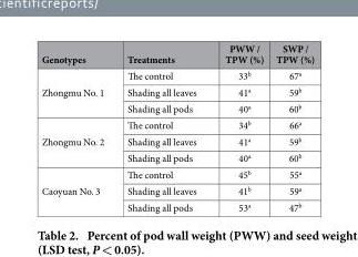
<table><thead><tr><td>Genotypes</td><td>Treatments</td><td>PWW / TPW (%)</td><td>SWP / TPW (%)</td></tr></thead><tbody><tr><td rowspan="3">Zhongmu No. 1</td><td>The control</td><td>33<sup>b</sup></td><td>67<sup>a</sup></td></tr><tr><td>Shading all leaves</td><td>41<sup>a</sup></td><td>59<sup>b</sup></td></tr><tr><td>Shading all pods</td><td>40<sup>a</sup></td><td>60<sup>b</sup></td></tr><tr><td rowspan="3">Zhongmu No. 2</td><td>The control</td><td>34<sup>b</sup></td><td>66<sup>a</sup></td></tr><tr><td>Shading all leaves</td><td>41<sup>a</sup></td><td>59<sup>b</sup></td></tr><tr><td>Shading all pods</td><td>40<sup>a</sup></td><td>60<sup>b</sup></td></tr><tr><td rowspan="3">Caoyuan No. 3</td><td>The control</td><td>45<sup>b</sup></td><td>55<sup>a</sup></td></tr><tr><td>Shading all leaves</td><td>41<sup>b</sup></td><td>59<sup>a</sup></td></tr><tr><td>Shading all pods</td><td>53<sup>a</sup></td><td>47<sup>b</sup></td></tr></tbody></table>